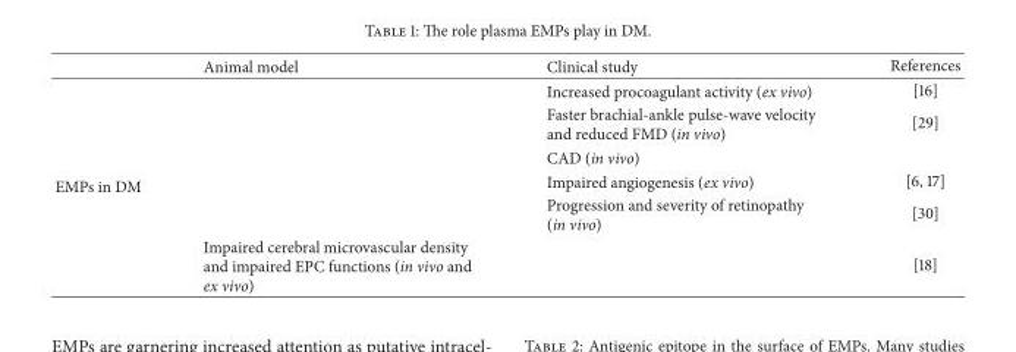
<table><thead><tr><td></td><td>Animal model</td><td>Clinical study</td><td>References</td></tr></thead><tbody><tr><td rowspan="6">EMPs in DM</td><td></td><td>Increased procoagulant activity (ex vivo)</td><td>[16]</td></tr><tr><td></td><td>Faster brachial-ankle pulse-wave velocity and reduced FMD (in vivo)</td><td>[29]</td></tr><tr><td></td><td>CAD (in vivo)</td><td></td></tr><tr><td></td><td>Impaired angiogenesis (ex vivo)</td><td>[6, 17]</td></tr><tr><td></td><td>Progression and severity of retinopathy (in vivo)</td><td>[30]</td></tr><tr><td>Impaired cerebral microvascular density and impaired EPC functions (in vivo and ex vivo)</td><td></td><td>[18]</td></tr></tbody></table>